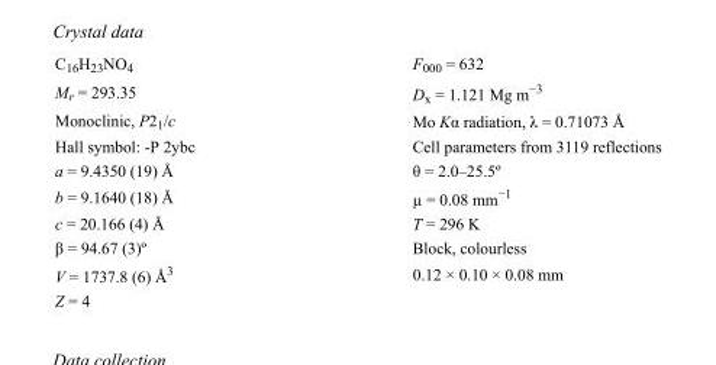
<table><tbody><tr><td>C<sub>16</sub>H<sub>23</sub>NO<sub>4</sub></td><td>F000 = 632</td></tr><tr><td>M<sub>r</sub> = 293.35</td><td>D<sub>x</sub> = 1.121 Mg m<sup>−3</sup></td></tr><tr><td>Monoclinic, P2<sub>1</sub>/c</td><td>Mo Kα radiation, λ = 0.71073 Å</td></tr><tr><td>Hall symbol: -P 2ybc</td><td>Cell parameters from 3119 reflections</td></tr><tr><td>a = 9.4350 (19) Å</td><td>θ = 2.0–25.5º</td></tr><tr><td>b = 9.1640 (18) Å</td><td>µ = 0.08 mm<sup>−1</sup></td></tr><tr><td>c = 20.166 (4) Å</td><td>T = 296 K</td></tr><tr><td>β = 94.67 (3)º</td><td>Block, colourless</td></tr><tr><td>V = 1737.8 (6) Å<sup>3</sup></td><td>0.12 × 0.10 × 0.08 mm</td></tr><tr><td>Z = 4</td><td></td></tr></tbody></table>